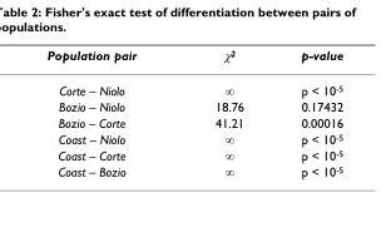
<table><thead><tr><td>Population pair</td><td>χ<sup>2</sup></td><td>p-value</td></tr></thead><tbody><tr><td>Corte – Niolo</td><td>∞</td><td>p &lt; 10<sup>-5</sup></td></tr><tr><td>Bozio – Niolo</td><td>18.76</td><td>0.17432</td></tr><tr><td>Bozio – Corte</td><td>41.21</td><td>0.00016</td></tr><tr><td>Coast – Niolo</td><td>∞</td><td>p &lt; 10<sup>-5</sup></td></tr><tr><td>Coast – Corte</td><td>∞</td><td>p &lt; 10<sup>-5</sup></td></tr><tr><td>Coast – Bozio</td><td>∞</td><td>p &lt; 10<sup>-5</sup></td></tr></tbody></table>